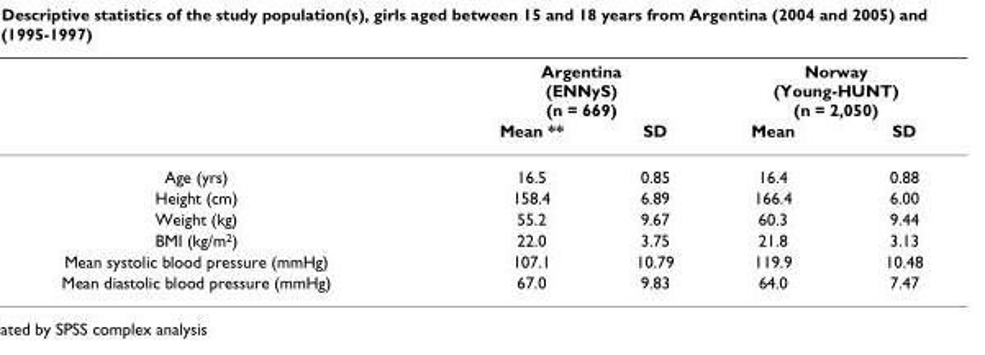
<table><thead><tr><td rowspan="2"></td><td colspan="2">Argentina (ENNyS) (n = 669)</td><td colspan="2">Norway (Young-HUNT) (n = 2,050)</td></tr><tr><td>Mean **</td><td>SD</td><td>Mean</td><td>SD</td></tr></thead><tbody><tr><td>Age (yrs)</td><td>16.5</td><td>0.85</td><td>16.4</td><td>0.88</td></tr><tr><td>Height (cm)</td><td>158.4</td><td>6.89</td><td>166.4</td><td>6.00</td></tr><tr><td>Weight (kg)</td><td>55.2</td><td>9.67</td><td>60.3</td><td>9.44</td></tr><tr><td>BMI (kg/m<sup>2</sup>)</td><td>22.0</td><td>3.75</td><td>21.8</td><td>3.13</td></tr><tr><td>Mean systolic blood pressure (mmHg)</td><td>107.1</td><td>10.79</td><td>119.9</td><td>10.48</td></tr><tr><td>Mean diastolic blood pressure (mmHg)</td><td>67.0</td><td>9.83</td><td>64.0</td><td>7.47</td></tr></tbody></table>